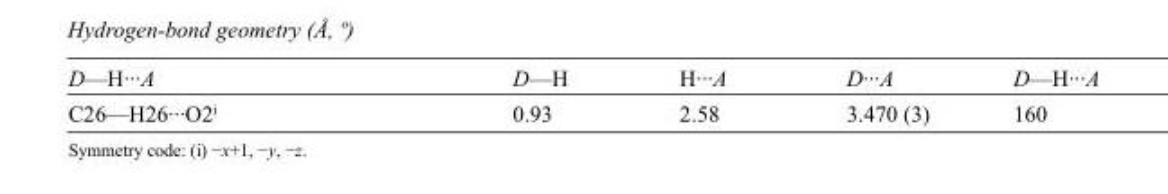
<table><tbody><tr><td>D—H···A</td><td>D—H</td><td>H···A</td><td>D···A</td><td>D—H···A</td></tr><tr><td>C26—H26···O2<sup>i</sup></td><td>0.93</td><td>2.58</td><td>3.470 (3)</td><td>160</td></tr></tbody></table>